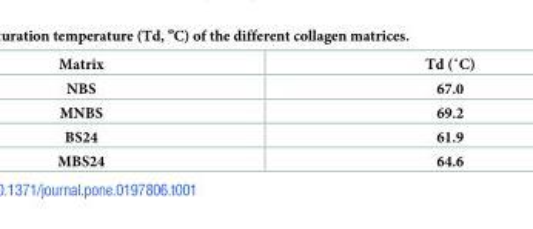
<table><thead><tr><td>Matrix</td><td>Td (˚C)</td></tr></thead><tbody><tr><td>NBS</td><td>67.0</td></tr><tr><td>MNBS</td><td>69.2</td></tr><tr><td>BS24</td><td>61.9</td></tr><tr><td>MBS24</td><td>64.6</td></tr></tbody></table>